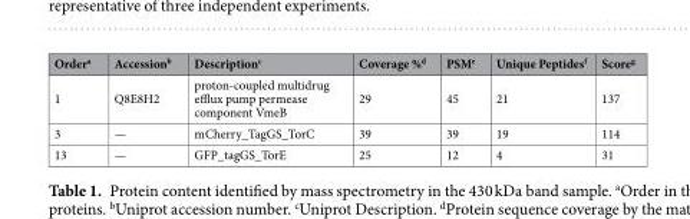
<table><thead><tr><td>Order<sup>a</sup></td><td>Accession<sup>b</sup></td><td>Description<sup>c</sup></td><td>Coverage %<sup>d</sup></td><td>PSM<sup>e</sup></td><td>Unique Peptides<sup>f</sup></td><td>Score<sup>g</sup></td></tr></thead><tbody><tr><td>1</td><td>Q8E8H2</td><td>proton-coupled multidrug efflux pump permease component VmeB</td><td>29</td><td>45</td><td>21</td><td>137</td></tr><tr><td>3</td><td>—</td><td>mCherry_TagGS_TorC</td><td>39</td><td>39</td><td>19</td><td>114</td></tr><tr><td>13</td><td>—</td><td>GFP_tagGS_TorE</td><td>25</td><td>12</td><td>4</td><td>31</td></tr></tbody></table>